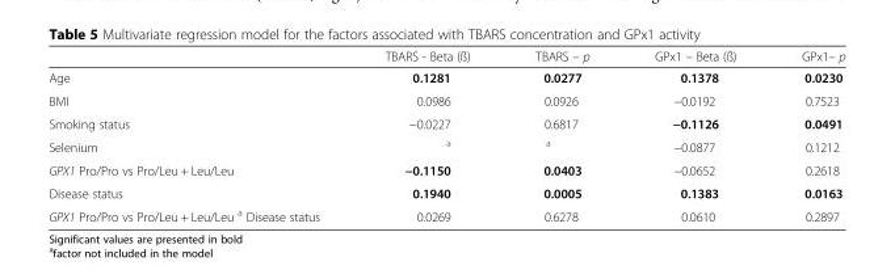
<table><thead><tr><td></td><td>TBARS - Beta (ß)</td><td>TBARS – p</td><td>GPx1 – Beta (ß)</td><td>GPx1– p</td></tr></thead><tbody><tr><td>Age</td><td>0.1281</td><td>0.0277</td><td>0.1378</td><td>0.0230</td></tr><tr><td>BMI</td><td>0.0986</td><td>0.0926</td><td>−0.0192</td><td>0.7523</td></tr><tr><td>Smoking status</td><td>−0.0227</td><td>0.6817</td><td>−0.1126</td><td>0.0491</td></tr><tr><td>Selenium</td><td><sup>a</sup></td><td><sup>a</sup></td><td>−0.0877</td><td>0.1212</td></tr><tr><td>GPX1 Pro/Pro vs Pro/Leu + Leu/Leu</td><td>−0.1150</td><td>0.0403</td><td>−0.0652</td><td>0.2618</td></tr><tr><td>Disease status</td><td>0.1940</td><td>0.0005</td><td>0.1383</td><td>0.0163</td></tr><tr><td>GPX1 Pro/Pro vs Pro/Leu + Leu/Leu <sup>a</sup> Disease status</td><td>0.0269</td><td>0.6278</td><td>0.0610</td><td>0.2897</td></tr></tbody></table>